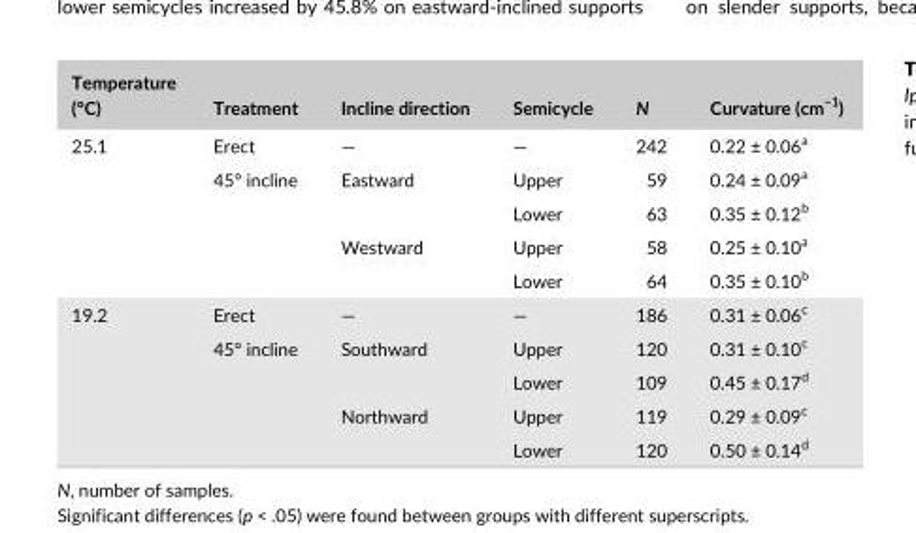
<table><thead><tr><td>Temperature (°C)</td><td>Treatment</td><td>Incline direction</td><td>Semicycle</td><td>N</td><td>Curvature (cm<sup>−1</sup>)</td></tr></thead><tbody><tr><td rowspan="5">25.1</td><td>Erect</td><td>—</td><td>—</td><td>242</td><td>0.22 ± 0.06<sup>a</sup></td></tr><tr><td>45° incline</td><td>Eastward</td><td>Upper</td><td>59</td><td>0.24 ± 0.09<sup>a</sup></td></tr><tr><td></td><td></td><td>Lower</td><td>63</td><td>0.35 ± 0.12<sup>b</sup></td></tr><tr><td></td><td>Westward</td><td>Upper</td><td>58</td><td>0.25 ± 0.10<sup>a</sup></td></tr><tr><td></td><td></td><td>Lower</td><td>64</td><td>0.35 ± 0.10<sup>b</sup></td></tr><tr><td rowspan="5">19.2</td><td>Erect</td><td>—</td><td>—</td><td>186</td><td>0.31 ± 0.06<sup>c</sup></td></tr><tr><td>45° incline</td><td>Southward</td><td>Upper</td><td>120</td><td>0.31 ± 0.10<sup>c</sup></td></tr><tr><td></td><td></td><td>Lower</td><td>109</td><td>0.45 ± 0.17<sup>d</sup></td></tr><tr><td></td><td>Northward</td><td>Upper</td><td>119</td><td>0.29 ± 0.09<sup>c</sup></td></tr><tr><td></td><td></td><td>Lower</td><td>120</td><td>0.50 ± 0.14<sup>d</sup></td></tr></tbody></table>